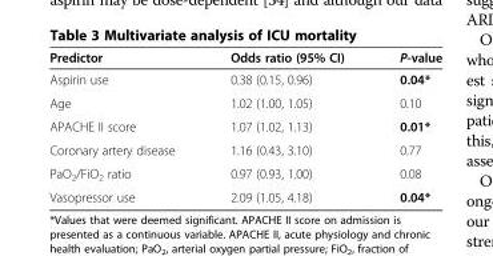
<table><thead><tr><td>Predictor</td><td>Odds ratio (95% CI)</td><td>P-value</td></tr></thead><tbody><tr><td>Aspirin use</td><td>0.38 (0.15, 0.96)</td><td>0.04*</td></tr><tr><td>Age</td><td>1.02 (1.00, 1.05)</td><td>0.10</td></tr><tr><td>APACHE II score</td><td>1.07 (1.02, 1.13)</td><td>0.01*</td></tr><tr><td>Coronary artery disease</td><td>1.16 (0.43, 3.10)</td><td>0.77</td></tr><tr><td>PaO<sub>2</sub>/FiO<sub>2</sub> ratio</td><td>0.97 (0.93, 1.00)</td><td>0.08</td></tr><tr><td>Vasopressor use</td><td>2.09 (1.05, 4.18)</td><td>0.04*</td></tr></tbody></table>